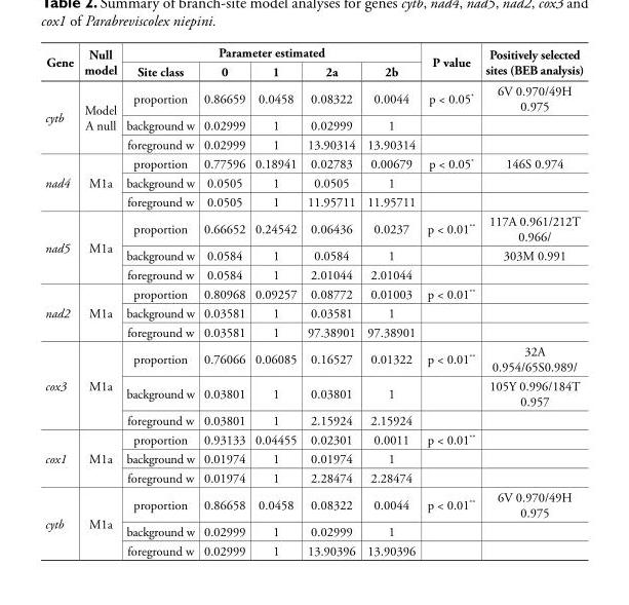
<table><thead><tr><td rowspan="2">Gene</td><td rowspan="2">Null model</td><td colspan="5">Parameter estimated</td><td rowspan="2">P value</td><td rowspan="2">Positively selected sites (BEB analysis)</td></tr><tr><td>Site class</td><td>0</td><td>1</td><td>2a</td><td>2b</td></tr></thead><tbody><tr><td rowspan="3">cytb</td><td rowspan="3">Model A null</td><td>proportion</td><td>0.86659</td><td>0.0458</td><td>0.08322</td><td>0.0044</td><td>p &lt; 0.05*</td><td>6V 0.970/49H 0.975</td></tr><tr><td>background w</td><td>0.02999</td><td>1</td><td>0.02999</td><td>1</td><td></td><td></td></tr><tr><td>foreground w</td><td>0.02999</td><td>1</td><td>13.90314</td><td>13.90314</td><td></td><td></td></tr><tr><td rowspan="3">nad4</td><td rowspan="3">M1a</td><td>proportion</td><td>0.77596</td><td>0.18941</td><td>0.02783</td><td>0.00679</td><td>p &lt; 0.05*</td><td>146S 0.974</td></tr><tr><td>background w</td><td>0.0505</td><td>1</td><td>0.0505</td><td>1</td><td></td><td></td></tr><tr><td>foreground w</td><td>0.0505</td><td>1</td><td>11.95711</td><td>11.95711</td><td></td><td></td></tr><tr><td rowspan="3">nad5</td><td rowspan="3">M1a</td><td>proportion</td><td>0.66652</td><td>0.24542</td><td>0.06436</td><td>0.0237</td><td>p &lt; 0.01**</td><td>117A 0.961/212T 0.966/</td></tr><tr><td>background w</td><td>0.0584</td><td>1</td><td>0.0584</td><td>1</td><td></td><td>303M 0.991</td></tr><tr><td>foreground w</td><td>0.0584</td><td>1</td><td>2.01044</td><td>2.01044</td><td></td><td></td></tr><tr><td rowspan="3">nad2</td><td rowspan="3">M1a</td><td>proportion</td><td>0.80968</td><td>0.09257</td><td>0.08772</td><td>0.01003</td><td>p &lt; 0.01**</td><td></td></tr><tr><td>background w</td><td>0.03581</td><td>1</td><td>0.03581</td><td>1</td><td></td><td></td></tr><tr><td>foreground w</td><td>0.03581</td><td>1</td><td>97.38901</td><td>97.38901</td><td></td><td></td></tr><tr><td rowspan="3">cox3</td><td rowspan="3">M1a</td><td>proportion</td><td>0.76066</td><td>0.06085</td><td>0.16527</td><td>0.01322</td><td>p &lt; 0.01**</td><td>32A 0.954/65S0.989/</td></tr><tr><td>background w</td><td>0.03801</td><td>1</td><td>0.03801</td><td>1</td><td></td><td>105Y 0.996/184T 0.957</td></tr><tr><td>foreground w</td><td>0.03801</td><td>1</td><td>2.15924</td><td>2.15924</td><td></td><td></td></tr><tr><td rowspan="3">cox1</td><td rowspan="3">M1a</td><td>proportion</td><td>0.93133</td><td>0.04455</td><td>0.02301</td><td>0.0011</td><td>p &lt; 0.01**</td><td></td></tr><tr><td>background w</td><td>0.01974</td><td>1</td><td>0.01974</td><td>1</td><td></td><td></td></tr><tr><td>foreground w</td><td>0.01974</td><td>1</td><td>2.28474</td><td>2.28474</td><td></td><td></td></tr><tr><td rowspan="3">cytb</td><td rowspan="3">M1a</td><td>proportion</td><td>0.86658</td><td>0.0458</td><td>0.08322</td><td>0.0044</td><td>p &lt; 0.01**</td><td>6V 0.970/49H 0.975</td></tr><tr><td>background w</td><td>0.02999</td><td>1</td><td>0.02999</td><td>1</td><td></td><td></td></tr><tr><td>foreground w</td><td>0.02999</td><td>1</td><td>13.90396</td><td>13.90396</td><td></td><td></td></tr></tbody></table>